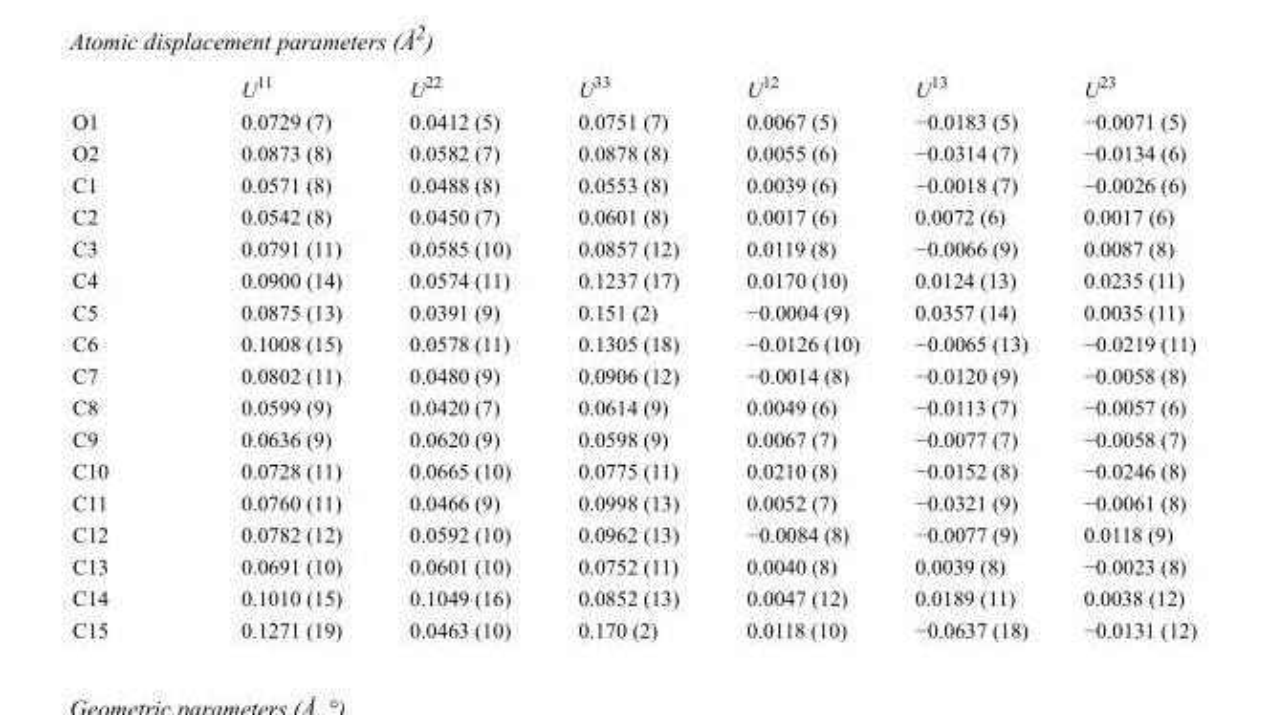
<table><thead><tr><td></td><td>U<sup>11</sup></td><td>U<sup>22</sup></td><td>U<sup>33</sup></td><td>U<sup>12</sup></td><td>U<sup>13</sup></td><td>U<sup>23</sup></td></tr></thead><tbody><tr><td>O1</td><td>0.0729 (7)</td><td>0.0412 (5)</td><td>0.0751 (7)</td><td>0.0067 (5)</td><td>−0.0183 (5)</td><td>−0.0071 (5)</td></tr><tr><td>O2</td><td>0.0873 (8)</td><td>0.0582 (7)</td><td>0.0878 (8)</td><td>0.0055 (6)</td><td>−0.0314 (7)</td><td>−0.0134 (6)</td></tr><tr><td>C1</td><td>0.0571 (8)</td><td>0.0488 (8)</td><td>0.0553 (8)</td><td>0.0039 (6)</td><td>−0.0018 (7)</td><td>−0.0026 (6)</td></tr><tr><td>C2</td><td>0.0542 (8)</td><td>0.0450 (7)</td><td>0.0601 (8)</td><td>0.0017 (6)</td><td>0.0072 (6)</td><td>0.0017 (6)</td></tr><tr><td>C3</td><td>0.0791 (11)</td><td>0.0585 (10)</td><td>0.0857 (12)</td><td>0.0119 (8)</td><td>−0.0066 (9)</td><td>0.0087 (8)</td></tr><tr><td>C4</td><td>0.0900 (14)</td><td>0.0574 (11)</td><td>0.1237 (17)</td><td>0.0170 (10)</td><td>0.0124 (13)</td><td>0.0235 (11)</td></tr><tr><td>C5</td><td>0.0875 (13)</td><td>0.0391 (9)</td><td>0.151 (2)</td><td>−0.0004 (9)</td><td>0.0357 (14)</td><td>0.0035 (11)</td></tr><tr><td>C6</td><td>0.1008 (15)</td><td>0.0578 (11)</td><td>0.1305 (18)</td><td>−0.0126 (10)</td><td>−0.0065 (13)</td><td>−0.0219 (11)</td></tr><tr><td>C7</td><td>0.0802 (11)</td><td>0.0480 (9)</td><td>0.0906 (12)</td><td>−0.0014 (8)</td><td>−0.0120 (9)</td><td>−0.0058 (8)</td></tr><tr><td>C8</td><td>0.0599 (9)</td><td>0.0420 (7)</td><td>0.0614 (9)</td><td>0.0049 (6)</td><td>−0.0113 (7)</td><td>−0.0057 (6)</td></tr><tr><td>C9</td><td>0.0636 (9)</td><td>0.0620 (9)</td><td>0.0598 (9)</td><td>0.0067 (7)</td><td>−0.0077 (7)</td><td>−0.0058 (7)</td></tr><tr><td>C10</td><td>0.0728 (11)</td><td>0.0665 (10)</td><td>0.0775 (11)</td><td>0.0210 (8)</td><td>−0.0152 (8)</td><td>−0.0246 (8)</td></tr><tr><td>C11</td><td>0.0760 (11)</td><td>0.0466 (9)</td><td>0.0998 (13)</td><td>0.0052 (7)</td><td>−0.0321 (9)</td><td>−0.0061 (8)</td></tr><tr><td>C12</td><td>0.0782 (12)</td><td>0.0592 (10)</td><td>0.0962 (13)</td><td>−0.0084 (8)</td><td>−0.0077 (9)</td><td>0.0118 (9)</td></tr><tr><td>C13</td><td>0.0691 (10)</td><td>0.0601 (10)</td><td>0.0752 (11)</td><td>0.0040 (8)</td><td>0.0039 (8)</td><td>−0.0023 (8)</td></tr><tr><td>C14</td><td>0.1010 (15)</td><td>0.1049 (16)</td><td>0.0852 (13)</td><td>0.0047 (12)</td><td>0.0189 (11)</td><td>0.0038 (12)</td></tr><tr><td>C15</td><td>0.1271 (19)</td><td>0.0463 (10)</td><td>0.170 (2)</td><td>0.0118 (10)</td><td>−0.0637 (18)</td><td>−0.0131 (12)</td></tr></tbody></table>